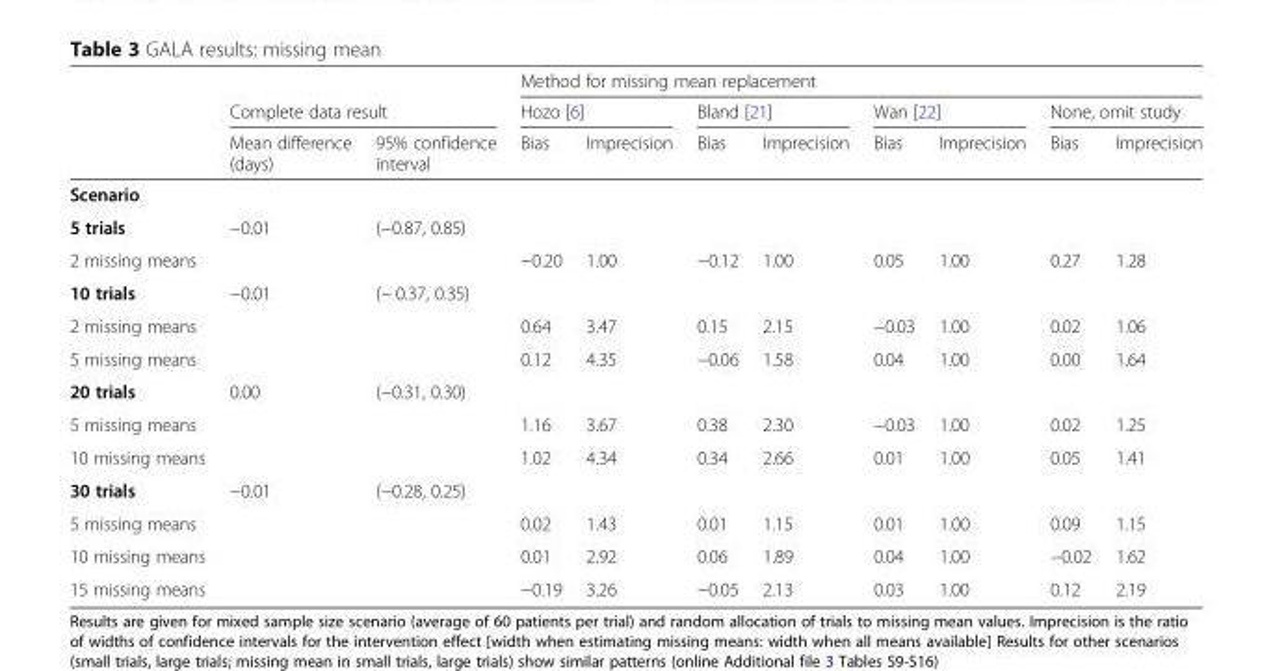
<table><thead><tr><td rowspan="3"></td><td></td><td></td><td colspan="8">Method for missing mean replacement</td></tr><tr><td colspan="2">Complete data result</td><td colspan="2">Hozo [6]</td><td colspan="2">Bland [21]</td><td colspan="2">Wan [22]</td><td colspan="2">None, omit study</td></tr><tr><td>Mean difference (days)</td><td>95% confidence interval</td><td>Bias</td><td>Imprecision</td><td>Bias</td><td>Imprecision</td><td>Bias</td><td>Imprecision</td><td>Bias</td><td>Imprecision</td></tr></thead><tbody><tr><td colspan="11">Scenario</td></tr><tr><td>5 trials</td><td>−0.01</td><td>(−0.87, 0.85)</td><td></td><td></td><td></td><td></td><td></td><td></td><td></td><td></td></tr><tr><td>2 missing means</td><td colspan="2"></td><td>−0.20</td><td>1.00</td><td>−0.12</td><td>1.00</td><td>0.05</td><td>1.00</td><td>0.27</td><td>1.28</td></tr><tr><td>10 trials</td><td>−0.01</td><td>(− 0.37, 0.35)</td><td></td><td></td><td></td><td></td><td></td><td></td><td></td><td></td></tr><tr><td>2 missing means</td><td colspan="2"></td><td>0.64</td><td>3.47</td><td>0.15</td><td>2.15</td><td>−0.03</td><td>1.00</td><td>0.02</td><td>1.06</td></tr><tr><td>5 missing means</td><td colspan="2"></td><td>0.12</td><td>4.35</td><td>−0.06</td><td>1.58</td><td>0.04</td><td>1.00</td><td>0.00</td><td>1.64</td></tr><tr><td>20 trials</td><td>0.00</td><td>(−0.31, 0.30)</td><td></td><td></td><td></td><td></td><td></td><td></td><td></td><td></td></tr><tr><td>5 missing means</td><td colspan="2"></td><td>1.16</td><td>3.67</td><td>0.38</td><td>2.30</td><td>−0.03</td><td>1.00</td><td>0.02</td><td>1.25</td></tr><tr><td>10 missing means</td><td colspan="2"></td><td>1.02</td><td>4.34</td><td>0.34</td><td>2.66</td><td>0.01</td><td>1.00</td><td>0.05</td><td>1.41</td></tr><tr><td>30 trials</td><td>−0.01</td><td>(−0.28, 0.25)</td><td></td><td></td><td></td><td></td><td></td><td></td><td></td><td></td></tr><tr><td>5 missing means</td><td colspan="2"></td><td>0.02</td><td>1.43</td><td>0.01</td><td>1.15</td><td>0.01</td><td>1.00</td><td>0.09</td><td>1.15</td></tr><tr><td>10 missing means</td><td colspan="2"></td><td>0.01</td><td>2.92</td><td>0.06</td><td>1.89</td><td>0.04</td><td>1.00</td><td>−0.02</td><td>1.62</td></tr><tr><td>15 missing means</td><td colspan="2"></td><td>−0.19</td><td>3.26</td><td>−0.05</td><td>2.13</td><td>0.03</td><td>1.00</td><td>0.12</td><td>2.19</td></tr></tbody></table>